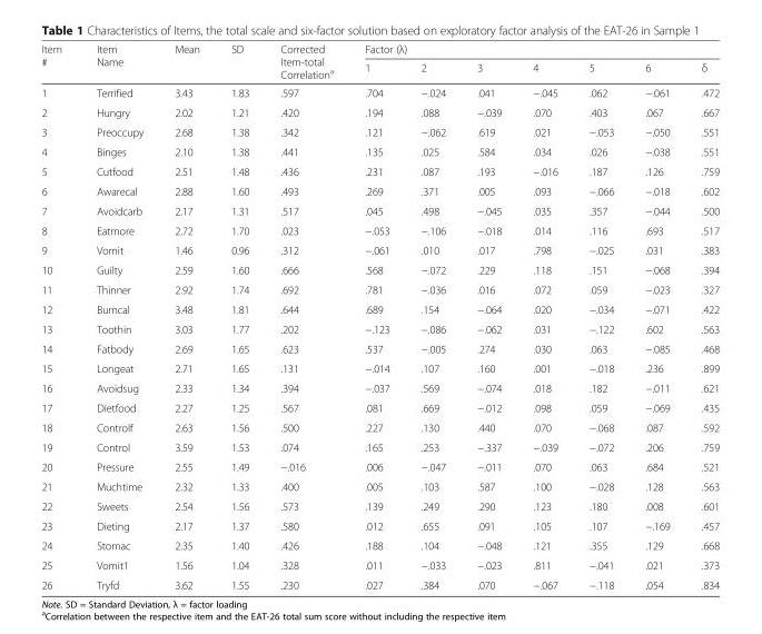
<table><thead><tr><td rowspan="2">Item #</td><td rowspan="2">Item Name</td><td rowspan="2">Mean</td><td rowspan="2">SD</td><td rowspan="2">Corrected Item-total Correlation<sup>a</sup></td><td colspan="7">Factor (λ)</td></tr><tr><td>1</td><td>2</td><td>3</td><td>4</td><td>5</td><td>6</td><td>δ</td></tr></thead><tbody><tr><td>1</td><td>Terrified</td><td>3.43</td><td>1.83</td><td>.597</td><td>.704</td><td>−.024</td><td>.041</td><td>−.045</td><td>.062</td><td>−.061</td><td>.472</td></tr><tr><td>2</td><td>Hungry</td><td>2.02</td><td>1.21</td><td>.420</td><td>.194</td><td>.088</td><td>−.039</td><td>.070</td><td>.403</td><td>.067</td><td>.667</td></tr><tr><td>3</td><td>Preoccupy</td><td>2.68</td><td>1.38</td><td>.342</td><td>.121</td><td>−.062</td><td>.619</td><td>.021</td><td>−.053</td><td>−.050</td><td>.551</td></tr><tr><td>4</td><td>Binges</td><td>2.10</td><td>1.38</td><td>.441</td><td>.135</td><td>.025</td><td>.584</td><td>.034</td><td>.026</td><td>−.038</td><td>.551</td></tr><tr><td>5</td><td>Cutfood</td><td>2.51</td><td>1.48</td><td>.436</td><td>.231</td><td>.087</td><td>.193</td><td>−.016</td><td>.187</td><td>.126</td><td>.759</td></tr><tr><td>6</td><td>Awarecal</td><td>2.88</td><td>1.60</td><td>.493</td><td>.269</td><td>.371</td><td>.005</td><td>.093</td><td>−.066</td><td>−.018</td><td>.602</td></tr><tr><td>7</td><td>Avoidcarb</td><td>2.17</td><td>1.31</td><td>.517</td><td>.045</td><td>.498</td><td>−.045</td><td>.035</td><td>.357</td><td>−.044</td><td>.500</td></tr><tr><td>8</td><td>Eatmore</td><td>2.72</td><td>1.70</td><td>.023</td><td>−.053</td><td>−.106</td><td>−.018</td><td>.014</td><td>.116</td><td>.693</td><td>.517</td></tr><tr><td>9</td><td>Vomit</td><td>1.46</td><td>0.96</td><td>.312</td><td>−.061</td><td>.010</td><td>.017</td><td>.798</td><td>−.025</td><td>.031</td><td>.383</td></tr><tr><td>10</td><td>Guilty</td><td>2.59</td><td>1.60</td><td>.666</td><td>.568</td><td>−.072</td><td>.229</td><td>.118</td><td>.151</td><td>−.068</td><td>.394</td></tr><tr><td>11</td><td>Thinner</td><td>2.92</td><td>1.74</td><td>.692</td><td>.781</td><td>−.036</td><td>.016</td><td>.072</td><td>.059</td><td>−.023</td><td>.327</td></tr><tr><td>12</td><td>Burncal</td><td>3.48</td><td>1.81</td><td>.644</td><td>.689</td><td>.154</td><td>−.064</td><td>.020</td><td>−.034</td><td>−.071</td><td>.422</td></tr><tr><td>13</td><td>Toothin</td><td>3.03</td><td>1.77</td><td>.202</td><td>−.123</td><td>−.086</td><td>−.062</td><td>.031</td><td>−.122</td><td>.602</td><td>.563</td></tr><tr><td>14</td><td>Fatbody</td><td>2.69</td><td>1.65</td><td>.623</td><td>.537</td><td>−.005</td><td>.274</td><td>.030</td><td>.063</td><td>−.085</td><td>.468</td></tr><tr><td>15</td><td>Longeat</td><td>2.71</td><td>1.65</td><td>.131</td><td>−.014</td><td>.107</td><td>.160</td><td>.001</td><td>−.018</td><td>.236</td><td>.899</td></tr><tr><td>16</td><td>Avoidsug</td><td>2.33</td><td>1.34</td><td>.394</td><td>−.037</td><td>.569</td><td>−.074</td><td>.018</td><td>.182</td><td>−.011</td><td>.621</td></tr><tr><td>17</td><td>Dietfood</td><td>2.27</td><td>1.25</td><td>.567</td><td>.081</td><td>.669</td><td>−.012</td><td>.098</td><td>.059</td><td>−.069</td><td>.435</td></tr><tr><td>18</td><td>Controlf</td><td>2.63</td><td>1.56</td><td>.500</td><td>.227</td><td>.130</td><td>.440</td><td>.070</td><td>−.068</td><td>.087</td><td>.592</td></tr><tr><td>19</td><td>Control</td><td>3.59</td><td>1.53</td><td>.074</td><td>.165</td><td>.253</td><td>−.337</td><td>−.039</td><td>−.072</td><td>.206</td><td>.759</td></tr><tr><td>20</td><td>Pressure</td><td>2.55</td><td>1.49</td><td>−.016</td><td>.006</td><td>−.047</td><td>−.011</td><td>.070</td><td>.063</td><td>.684</td><td>.521</td></tr><tr><td>21</td><td>Muchtime</td><td>2.32</td><td>1.33</td><td>.400</td><td>.005</td><td>.103</td><td>.587</td><td>.100</td><td>−.028</td><td>.128</td><td>.563</td></tr><tr><td>22</td><td>Sweets</td><td>2.54</td><td>1.56</td><td>.573</td><td>.139</td><td>.249</td><td>.290</td><td>.123</td><td>.180</td><td>.008</td><td>.601</td></tr><tr><td>23</td><td>Dieting</td><td>2.17</td><td>1.37</td><td>.580</td><td>.012</td><td>.655</td><td>.091</td><td>.105</td><td>.107</td><td>−.169</td><td>.457</td></tr><tr><td>24</td><td>Stomac</td><td>2.35</td><td>1.40</td><td>.426</td><td>.188</td><td>.104</td><td>−.048</td><td>.121</td><td>.355</td><td>.129</td><td>.668</td></tr><tr><td>25</td><td>Vomit1</td><td>1.56</td><td>1.04</td><td>.328</td><td>.011</td><td>−.033</td><td>−.023</td><td>.811</td><td>−.041</td><td>.021</td><td>.373</td></tr><tr><td>26</td><td>Tryfd</td><td>3.62</td><td>1.55</td><td>.230</td><td>.027</td><td>.384</td><td>.070</td><td>−.067</td><td>−.118</td><td>.054</td><td>.834</td></tr></tbody></table>